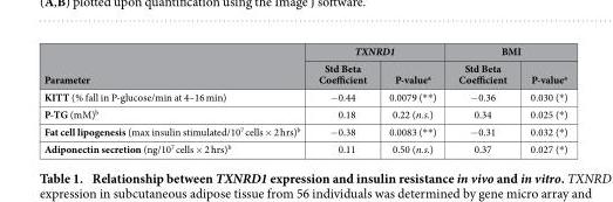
<table><thead><tr><td rowspan="2">Parameter</td><td colspan="2">TXNRD1</td><td colspan="2">BMI</td></tr><tr><td>Std Beta Coefficient</td><td>P-value<sup>a</sup></td><td>Std Beta Coefficient</td><td>P-value<sup>a</sup></td></tr></thead><tbody><tr><td>KITT (% fall in P-glucose/min at 4–16 min)</td><td>− 0.44</td><td>0.0079 (* * )</td><td>− 0.36</td><td>0.030 (* )</td></tr><tr><td>P-TG (mM)<sup>b</sup></td><td>0.18</td><td>0.22 (n.s.)</td><td>0.34</td><td>0.025 (* )</td></tr><tr><td>Fat cell lipogenesis (max insulin stimulated/10<sup>7</sup> cells × 2 hrs)<sup>b</sup></td><td>− 0.38</td><td>0.0083 (* * )</td><td>− 0.31</td><td>0.032 (* )</td></tr><tr><td>Adiponectin secretion (ng/10<sup>7</sup> cells × 2 hrs)<sup>b</sup></td><td>0.11</td><td>0.50 (n.s.)</td><td>0.37</td><td>0.027 (* )</td></tr></tbody></table>